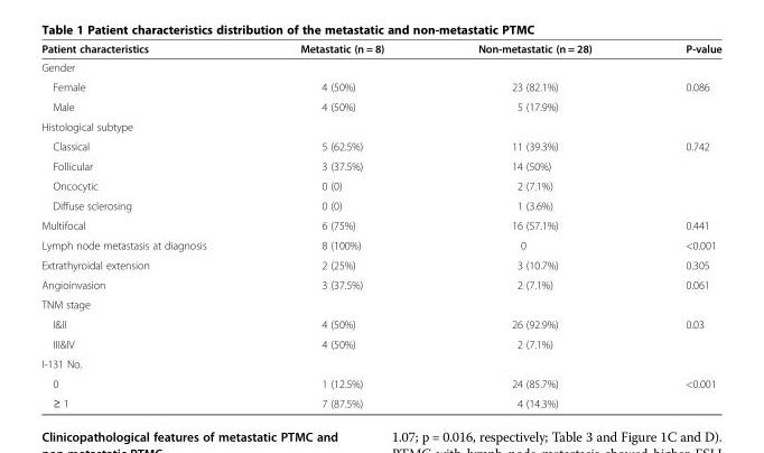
<table><thead><tr><td>Patient characteristics</td><td>Metastatic (n = 8)</td><td>Non-metastatic (n = 28)</td><td>P-value</td></tr></thead><tbody><tr><td colspan="4">Gender</td></tr><tr><td>Female</td><td>4 (50%)</td><td>23 (82.1%)</td><td rowspan="2">0.086</td></tr><tr><td>Male</td><td>4 (50%)</td><td>5 (17.9%)</td></tr><tr><td colspan="4">Histological subtype</td></tr><tr><td>Classical</td><td>5 (62.5%)</td><td>11 (39.3%)</td><td rowspan="4">0.742</td></tr><tr><td>Follicular</td><td>3 (37.5%)</td><td>14 (50%)</td></tr><tr><td>Oncocytic</td><td>0 (0)</td><td>2 (7.1%)</td></tr><tr><td>Diffuse sclerosing</td><td>0 (0)</td><td>1 (3.6%)</td></tr><tr><td>Multifocal</td><td>6 (75%)</td><td>16 (57.1%)</td><td>0.441</td></tr><tr><td>Lymph node metastasis at diagnosis</td><td>8 (100%)</td><td>0</td><td>&lt;0.001</td></tr><tr><td>Extrathyroidal extension</td><td>2 (25%)</td><td>3 (10.7%)</td><td>0.305</td></tr><tr><td>Angioinvasion</td><td>3 (37.5%)</td><td>2 (7.1%)</td><td>0.061</td></tr><tr><td colspan="4">TNM stage</td></tr><tr><td>I&amp;II</td><td>4 (50%)</td><td>26 (92.9%)</td><td rowspan="2">0.03</td></tr><tr><td>III&amp;IV</td><td>4 (50%)</td><td>2 (7.1%)</td></tr><tr><td colspan="4">I-131 No.</td></tr><tr><td>0</td><td>1 (12.5%)</td><td>24 (85.7%)</td><td rowspan="2">&lt;0.001</td></tr><tr><td>≥ 1</td><td>7 (87.5%)</td><td>4 (14.3%)</td></tr></tbody></table>